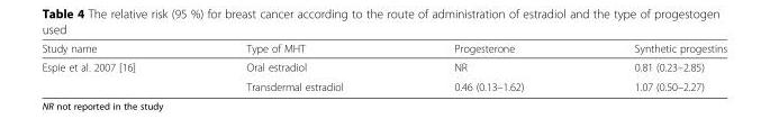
<table><thead><tr><td>Study name</td><td>Type of MHT</td><td>Progesterone</td><td>Synthetic progestins</td></tr></thead><tbody><tr><td rowspan="2">Espie et al. 2007 [16]</td><td>Oral estradiol</td><td>NR</td><td>0.81 (0.23–2.85)</td></tr><tr><td>Transdermal estradiol</td><td>0.46 (0.13–1.62)</td><td>1.07 (0.50–2.27)</td></tr></tbody></table>